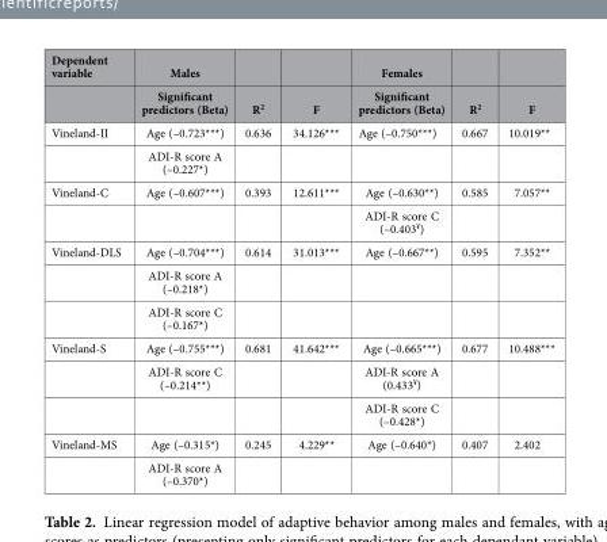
<table><thead><tr><td rowspan="2">Dependent variable</td><td rowspan="2">Males Significant predictors (Beta)</td><td rowspan="2">R<sup>2</sup></td><td rowspan="2">F</td><td rowspan="2">Females Significant predictors (Beta)</td><td rowspan="2">R<sup>2</sup></td><td rowspan="2">F</td></tr><tr></tr></thead><tbody><tr><td rowspan="2">Vineland-II</td><td>Age (–0.723***)</td><td>0.636</td><td>34.126***</td><td>Age (–0.750***)</td><td>0.667</td><td>10.019**</td></tr><tr><td>ADI-R score A (–0.227*)</td><td></td><td></td><td></td><td></td><td></td></tr><tr><td rowspan="2">Vineland-C</td><td>Age (–0.607***)</td><td>0.393</td><td>12.611***</td><td>Age (–0.630**)</td><td>0.585</td><td>7.057**</td></tr><tr><td></td><td></td><td></td><td>ADI-R score C (–0.403<sup>¥</sup>)</td><td></td><td></td></tr><tr><td rowspan="3">Vineland-DLS</td><td>Age (–0.704***)</td><td>0.614</td><td>31.013***</td><td>Age (–0.667**)</td><td>0.595</td><td>7.352**</td></tr><tr><td>ADI-R score A (–0.218*)</td><td></td><td></td><td></td><td></td><td></td></tr><tr><td>ADI-R score C (–0.167*)</td><td></td><td></td><td></td><td></td><td></td></tr><tr><td rowspan="3">Vineland-S</td><td>Age (–0.755***)</td><td>0.681</td><td>41.642***</td><td>Age (–0.665***)</td><td>0.677</td><td>10.488***</td></tr><tr><td>ADI-R score C (–0.214**)</td><td></td><td></td><td>ADI-R score A (0.433<sup>¥</sup>)</td><td></td><td></td></tr><tr><td></td><td></td><td></td><td>ADI-R score C (–0.428*)</td><td></td><td></td></tr><tr><td rowspan="2">Vineland-MS</td><td>Age (–0.315*)</td><td>0.245</td><td>4.229**</td><td>Age (–0.640*)</td><td>0.407</td><td>2.402</td></tr><tr><td>ADI-R score A (–0.370*)</td><td></td><td></td><td></td><td></td><td></td></tr></tbody></table>